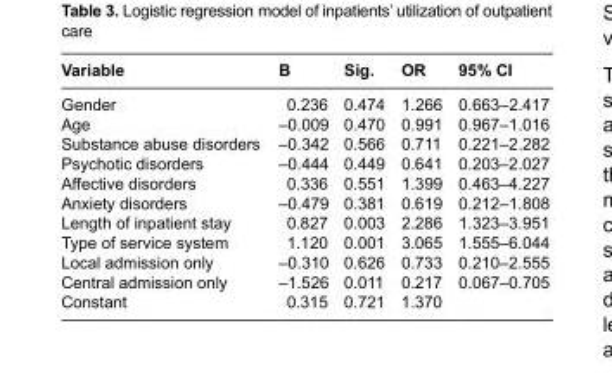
<table><thead><tr><td>Variable</td><td>B</td><td>Sig.</td><td>OR</td><td>95% CI</td></tr></thead><tbody><tr><td>Gender</td><td>0.236</td><td>0.474</td><td>1.266</td><td>0.663–2.417</td></tr><tr><td>Age</td><td>–0.009</td><td>0.470</td><td>0.991</td><td>0.967–1.016</td></tr><tr><td>Substance abuse disorders</td><td>–0.342</td><td>0.566</td><td>0.711</td><td>0.221–2.282</td></tr><tr><td>Psychotic disorders</td><td>–0.444</td><td>0.449</td><td>0.641</td><td>0.203–2.027</td></tr><tr><td>Affective disorders</td><td>0.336</td><td>0.551</td><td>1.399</td><td>0.463–4.227</td></tr><tr><td>Anxiety disorders</td><td>–0.479</td><td>0.381</td><td>0.619</td><td>0.212–1.808</td></tr><tr><td>Length of inpatient stay</td><td>0.827</td><td>0.003</td><td>2.286</td><td>1.323–3.951</td></tr><tr><td>Type of service system</td><td>1.120</td><td>0.001</td><td>3.065</td><td>1.555–6.044</td></tr><tr><td>Local admission only</td><td>–0.310</td><td>0.626</td><td>0.733</td><td>0.210–2.555</td></tr><tr><td>Central admission only</td><td>–1.526</td><td>0.011</td><td>0.217</td><td>0.067–0.705</td></tr><tr><td>Constant</td><td>0.315</td><td>0.721</td><td>1.370</td><td></td></tr></tbody></table>